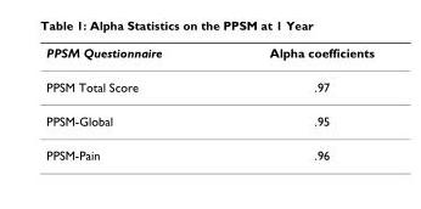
<table><thead><tr><td>PPSM Questionnaire</td><td>Alpha coefficients</td></tr></thead><tbody><tr><td>PPSM Total Score</td><td>.97</td></tr><tr><td>PPSM-Global</td><td>.95</td></tr><tr><td>PPSM-Pain</td><td>.96</td></tr></tbody></table>